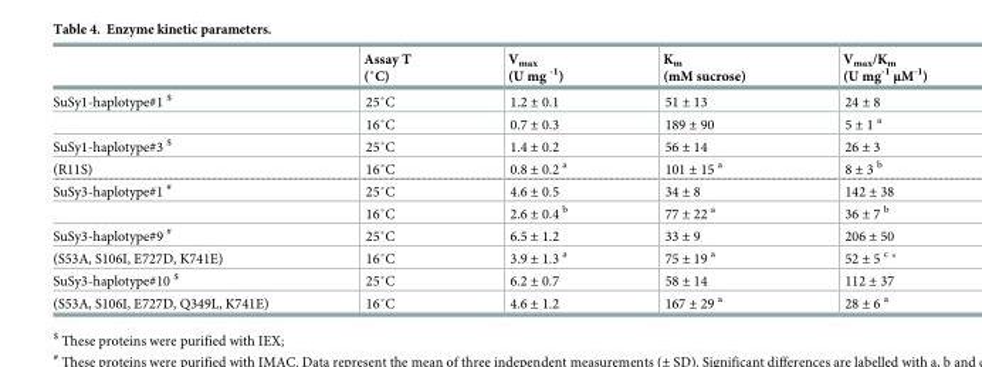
<table><thead><tr><td></td><td>Assay T (˚C)</td><td>V<sub>max</sub> (U mg <sup>-1</sup>)</td><td>K<sub>m</sub> (mM sucrose)</td><td>V<sub>max</sub>/K<sub>m</sub> (U mg<sup>-1</sup> μM<sup>-1</sup>)</td></tr></thead><tbody><tr><td rowspan="2">SuSy1-haplotype#1 <sup>$</sup></td><td>25˚C</td><td>1.2 ± 0.1</td><td>51 ± 13</td><td>24 ± 8</td></tr><tr><td>16˚C</td><td>0.7 ± 0.3</td><td>189 ± 90</td><td>5 ± 1 <sup>a</sup></td></tr><tr><td>SuSy1-haplotype#3 <sup>$</sup></td><td>25˚C</td><td>1.4 ± 0.2</td><td>56 ± 14</td><td>26 ± 3</td></tr><tr><td>(R11S)</td><td>16˚C</td><td>0.8 ± 0.2 <sup>a</sup></td><td>101 ± 15 <sup>a</sup></td><td>8 ± 3 <sup>b</sup></td></tr><tr><td rowspan="2">SuSy3-haplotype#1 <sup>#</sup></td><td>25˚C</td><td>4.6 ± 0.5</td><td>34 ± 8</td><td>142 ± 38</td></tr><tr><td>16˚C</td><td>2.6 ± 0.4 <sup>b</sup></td><td>77 ± 22 <sup>a</sup></td><td>36 ± 7 <sup>b</sup></td></tr><tr><td>SuSy3-haplotype#9 <sup>#</sup></td><td>25˚C</td><td>6.5 ± 1.2</td><td>33 ± 9</td><td>206 ± 50</td></tr><tr><td>(S53A, S106I, E727D, K741E)</td><td>16˚C</td><td>3.9 ± 1.3 <sup>a</sup></td><td>75 ± 19 <sup>a</sup></td><td>52 ± 5 <sup>c</sup> *</td></tr><tr><td>SuSy3-haplotype#10 <sup>$</sup></td><td>25˚C</td><td>6.2 ± 0.7</td><td>58 ± 14</td><td>112 ± 37</td></tr><tr><td>(S53A, S106I, E727D, Q349L, K741E)</td><td>16˚C</td><td>4.6 ± 1.2</td><td>167 ± 29 <sup>a</sup></td><td>28 ± 6 <sup>a</sup></td></tr></tbody></table>